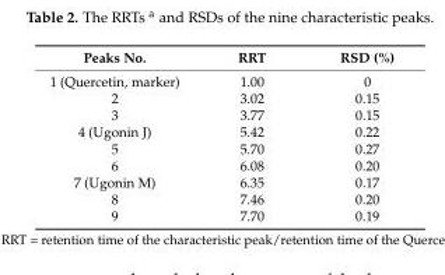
<table><thead><tr><td>Peaks No.</td><td>RRT</td><td>RSD (%)</td></tr></thead><tbody><tr><td>1 (Quercetin, marker)</td><td>1.00</td><td>0</td></tr><tr><td>2</td><td>3.02</td><td>0.15</td></tr><tr><td>3</td><td>3.77</td><td>0.15</td></tr><tr><td>4 (Ugonin J)</td><td>5.42</td><td>0.22</td></tr><tr><td>5</td><td>5.70</td><td>0.27</td></tr><tr><td>6</td><td>6.08</td><td>0.20</td></tr><tr><td>7 (Ugonin M)</td><td>6.35</td><td>0.17</td></tr><tr><td>8</td><td>7.46</td><td>0.20</td></tr><tr><td>9</td><td>7.70</td><td>0.19</td></tr></tbody></table>